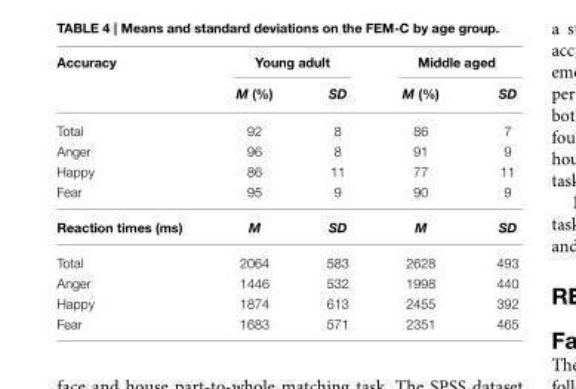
<table><thead><tr><td rowspan="2">Accuracy</td><td colspan="2">Young adult</td><td colspan="2">Middle aged</td></tr><tr><td>M (%)</td><td>SD</td><td>M (%)</td><td>SD</td></tr></thead><tbody><tr><td>Total</td><td>92</td><td>8</td><td>86</td><td>7</td></tr><tr><td>Anger</td><td>96</td><td>8</td><td>91</td><td>9</td></tr><tr><td>Happy</td><td>86</td><td>11</td><td>77</td><td>11</td></tr><tr><td>Fear</td><td>95</td><td>9</td><td>90</td><td>9</td></tr><tr><td>Reaction times (ms)</td><td>M</td><td>SD</td><td>M</td><td>SD</td></tr><tr><td>Total</td><td>2064</td><td>583</td><td>2628</td><td>493</td></tr><tr><td>Anger</td><td>1446</td><td>532</td><td>1998</td><td>440</td></tr><tr><td>Happy</td><td>1874</td><td>613</td><td>2455</td><td>392</td></tr><tr><td>Fear</td><td>1683</td><td>571</td><td>2351</td><td>465</td></tr></tbody></table>